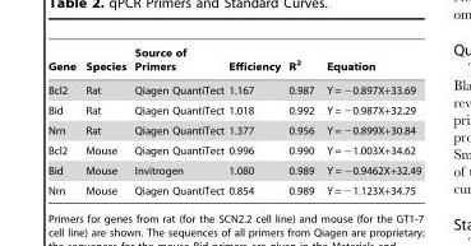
<table><thead><tr><td>Gene</td><td>Species</td><td>Source of Primers</td><td>Efficiency</td><td>R<sup>2</sup></td><td>Equation</td></tr></thead><tbody><tr><td>Bcl2</td><td>Rat</td><td>Qiagen QuantiTect</td><td>1.167</td><td>0.987</td><td>Y = −0.897X+33.69</td></tr><tr><td>Bid</td><td>Rat</td><td>Qiagen QuantiTect</td><td>1.018</td><td>0.992</td><td>Y = −0.987X+32.29</td></tr><tr><td>Nrn</td><td>Rat</td><td>Qiagen QuantiTect</td><td>1.377</td><td>0.956</td><td>Y = −0.899X+30.84</td></tr><tr><td>Bcl2</td><td>Mouse</td><td>Qiagen QuantiTect</td><td>0.996</td><td>0.990</td><td>Y = −1.003X+34.62</td></tr><tr><td>Bid</td><td>Mouse</td><td>Invitrogen</td><td>1.080</td><td>0.989</td><td>Y = −0.9462X+32.49</td></tr><tr><td>Nrn</td><td>Mouse</td><td>Qiagen QuantiTect</td><td>0.854</td><td>0.989</td><td>Y = −1.123X+34.75</td></tr></tbody></table>